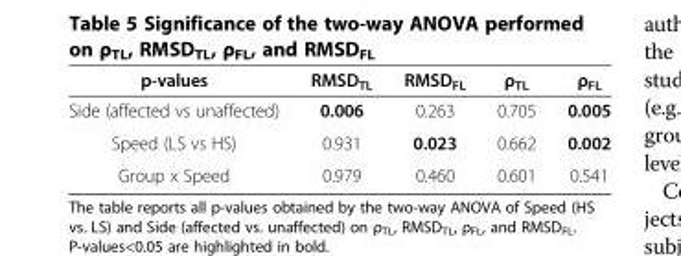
<table><thead><tr><td>p-values</td><td>RMSD<sub>TL</sub></td><td>RMSD<sub>FL</sub></td><td>ρ<sub>TL</sub></td><td>ρ<sub>FL</sub></td></tr></thead><tbody><tr><td>Side (affected vs unaffected)</td><td>0.006</td><td>0.263</td><td>0.705</td><td>0.005</td></tr><tr><td>Speed (LS vs HS)</td><td>0.931</td><td>0.023</td><td>0.662</td><td>0.002</td></tr><tr><td>Group x Speed</td><td>0.979</td><td>0.460</td><td>0.601</td><td>0.541</td></tr></tbody></table>